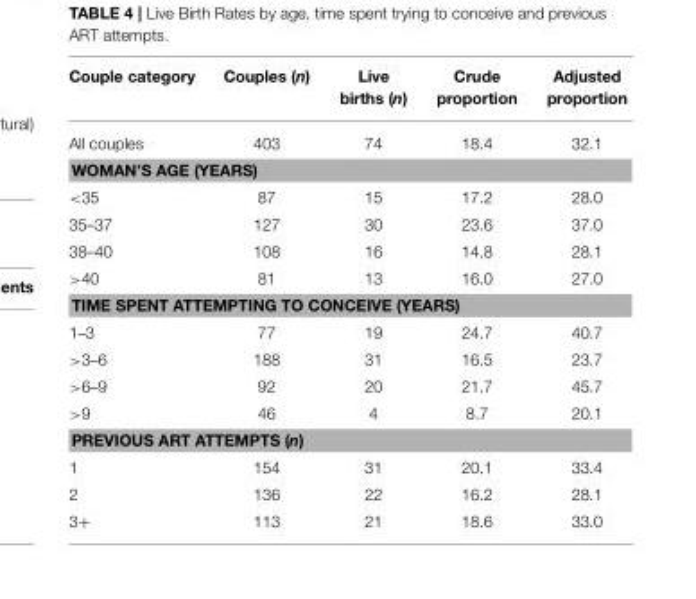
<table><thead><tr><td>Couple category</td><td>Couples (n)</td><td>Live births (n)</td><td>Crude proportion</td><td>Adjusted proportion</td></tr></thead><tbody><tr><td>All couples</td><td>403</td><td>74</td><td>18.4</td><td>32.1</td></tr><tr><td colspan="5">WOMAN’S AGE (YEARS)</td></tr><tr><td>&lt;35</td><td>87</td><td>15</td><td>17.2</td><td>28.0</td></tr><tr><td>35–37</td><td>127</td><td>30</td><td>23.6</td><td>37.0</td></tr><tr><td>38–40</td><td>108</td><td>16</td><td>14.8</td><td>28.1</td></tr><tr><td>&gt;40</td><td>81</td><td>13</td><td>16.0</td><td>27.0</td></tr><tr><td colspan="5">TIME SPENT ATTEMPTING TO CONCEIVE (YEARS)</td></tr><tr><td>1–3</td><td>77</td><td>19</td><td>24.7</td><td>40.7</td></tr><tr><td>&gt;3–6</td><td>188</td><td>31</td><td>16.5</td><td>23.7</td></tr><tr><td>&gt;6–9</td><td>92</td><td>20</td><td>21.7</td><td>45.7</td></tr><tr><td>&gt;9</td><td>46</td><td>4</td><td>8.7</td><td>20.1</td></tr><tr><td colspan="5">PREVIOUS ART ATTEMPTS (n)</td></tr><tr><td>1</td><td>154</td><td>31</td><td>20.1</td><td>33.4</td></tr><tr><td>2</td><td>136</td><td>22</td><td>16.2</td><td>28.1</td></tr><tr><td>3+</td><td>113</td><td>21</td><td>18.6</td><td>33.0</td></tr></tbody></table>